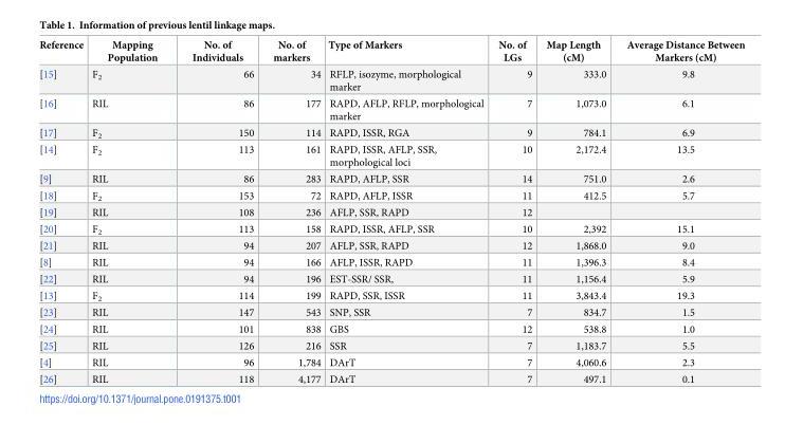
<table><thead><tr><td>Reference</td><td>Mapping Population</td><td>No. of Individuals</td><td>No. of markers</td><td>Type of Markers</td><td>No. of LGs</td><td>Map Length (cM)</td><td>Average Distance Between Markers (cM)</td></tr></thead><tbody><tr><td>[15]</td><td>F<sub>2</sub></td><td>66</td><td>34</td><td>RFLP, isozyme, morphological marker</td><td>9</td><td>333.0</td><td>9.8</td></tr><tr><td>[16]</td><td>RIL</td><td>86</td><td>177</td><td>RAPD, AFLP, RFLP, morphological marker</td><td>7</td><td>1,073.0</td><td>6.1</td></tr><tr><td>[17]</td><td>F<sub>2</sub></td><td>150</td><td>114</td><td>RAPD, ISSR, RGA</td><td>9</td><td>784.1</td><td>6.9</td></tr><tr><td>[14]</td><td>F<sub>2</sub></td><td>113</td><td>161</td><td>RAPD, ISSR, AFLP, SSR, morphological loci</td><td>10</td><td>2,172.4</td><td>13.5</td></tr><tr><td>[9]</td><td>RIL</td><td>86</td><td>283</td><td>RAPD, AFLP, SSR</td><td>14</td><td>751.0</td><td>2.6</td></tr><tr><td>[18]</td><td>F<sub>2</sub></td><td>153</td><td>72</td><td>RAPD, AFLP, ISSR</td><td>11</td><td>412.5</td><td>5.7</td></tr><tr><td>[19]</td><td>RIL</td><td>108</td><td>236</td><td>AFLP, SSR, RAPD</td><td>12</td><td></td><td></td></tr><tr><td>[20]</td><td>F<sub>2</sub></td><td>113</td><td>158</td><td>RAPD, ISSR, AFLP, SSR</td><td>10</td><td>2,392</td><td>15.1</td></tr><tr><td>[21]</td><td>RIL</td><td>94</td><td>207</td><td>AFLP, SSR, RAPD</td><td>12</td><td>1,868.0</td><td>9.0</td></tr><tr><td>[8]</td><td>RIL</td><td>94</td><td>166</td><td>AFLP, ISSR, RAPD</td><td>11</td><td>1,396.3</td><td>8.4</td></tr><tr><td>[22]</td><td>RIL</td><td>94</td><td>196</td><td>EST-SSR/ SSR,</td><td>11</td><td>1,156.4</td><td>5.9</td></tr><tr><td>[13]</td><td>F<sub>2</sub></td><td>114</td><td>199</td><td>RAPD, SSR, ISSR</td><td>11</td><td>3,843.4</td><td>19.3</td></tr><tr><td>[23]</td><td>RIL</td><td>147</td><td>543</td><td>SNP, SSR</td><td>7</td><td>834.7</td><td>1.5</td></tr><tr><td>[24]</td><td>RIL</td><td>101</td><td>838</td><td>GBS</td><td>12</td><td>538.8</td><td>1.0</td></tr><tr><td>[25]</td><td>RIL</td><td>126</td><td>216</td><td>SSR</td><td>7</td><td>1,183.7</td><td>5.5</td></tr><tr><td>[4]</td><td>RIL</td><td>96</td><td>1,784</td><td>DArT</td><td>7</td><td>4,060.6</td><td>2.3</td></tr><tr><td>[26]</td><td>RIL</td><td>118</td><td>4,177</td><td>DArT</td><td>7</td><td>497.1</td><td>0.1</td></tr></tbody></table>